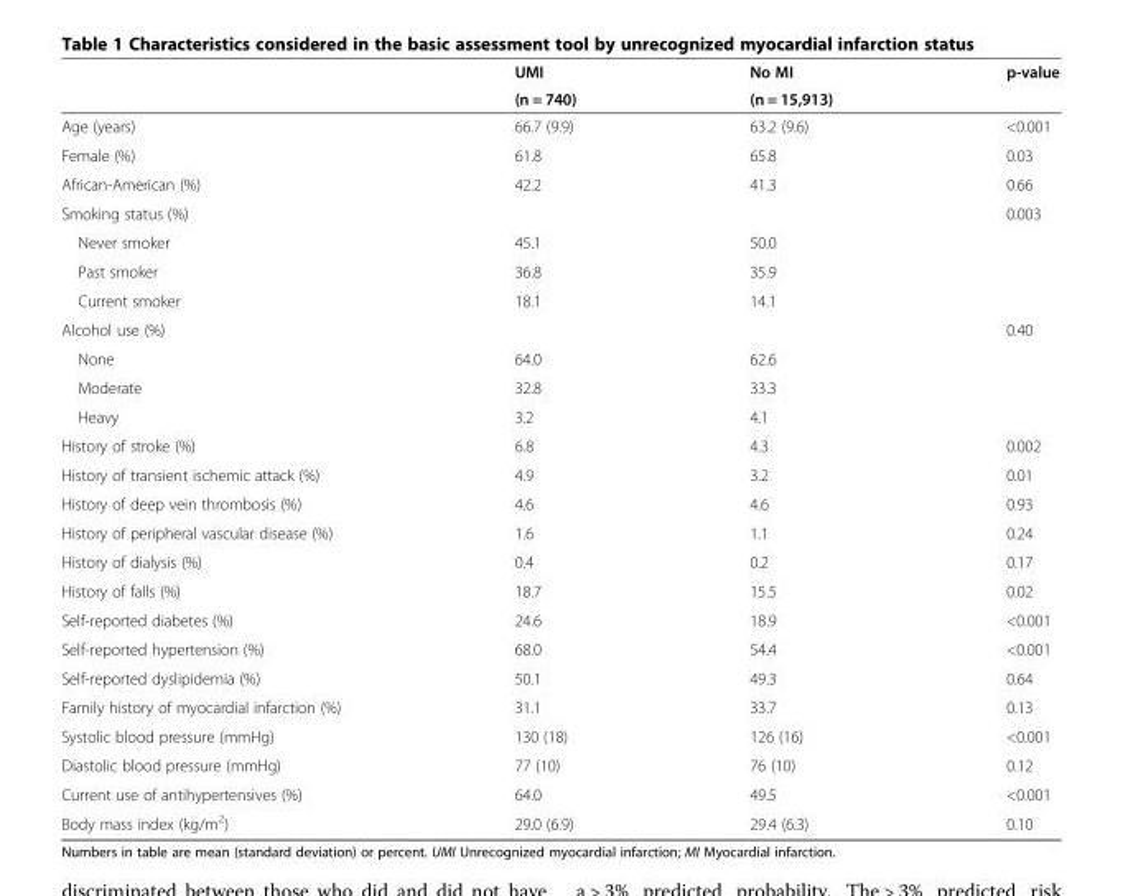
<table><thead><tr><td rowspan="2"></td><td rowspan="2">UMI (n = 740)</td><td rowspan="2">No MI (n = 15,913)</td><td rowspan="2">p-value</td></tr><tr></tr></thead><tbody><tr><td>Age (years)</td><td>66.7 (9.9)</td><td>63.2 (9.6)</td><td>&lt;0.001</td></tr><tr><td>Female (%)</td><td>61.8</td><td>65.8</td><td>0.03</td></tr><tr><td>African-American (%)</td><td>42.2</td><td>41.3</td><td>0.66</td></tr><tr><td>Smoking status (%)</td><td></td><td></td><td>0.003</td></tr><tr><td>Never smoker</td><td>45.1</td><td>50.0</td><td></td></tr><tr><td>Past smoker</td><td>36.8</td><td>35.9</td><td></td></tr><tr><td>Current smoker</td><td>18.1</td><td>14.1</td><td></td></tr><tr><td>Alcohol use (%)</td><td></td><td></td><td>0.40</td></tr><tr><td>None</td><td>64.0</td><td>62.6</td><td></td></tr><tr><td>Moderate</td><td>32.8</td><td>33.3</td><td></td></tr><tr><td>Heavy</td><td>3.2</td><td>4.1</td><td></td></tr><tr><td>History of stroke (%)</td><td>6.8</td><td>4.3</td><td>0.002</td></tr><tr><td>History of transient ischemic attack (%)</td><td>4.9</td><td>3.2</td><td>0.01</td></tr><tr><td>History of deep vein thrombosis (%)</td><td>4.6</td><td>4.6</td><td>0.93</td></tr><tr><td>History of peripheral vascular disease (%)</td><td>1.6</td><td>1.1</td><td>0.24</td></tr><tr><td>History of dialysis (%)</td><td>0.4</td><td>0.2</td><td>0.17</td></tr><tr><td>History of falls (%)</td><td>18.7</td><td>15.5</td><td>0.02</td></tr><tr><td>Self-reported diabetes (%)</td><td>24.6</td><td>18.9</td><td>&lt;0.001</td></tr><tr><td>Self-reported hypertension (%)</td><td>68.0</td><td>54.4</td><td>&lt;0.001</td></tr><tr><td>Self-reported dyslipidemia (%)</td><td>50.1</td><td>49.3</td><td>0.64</td></tr><tr><td>Family history of myocardial infarction (%)</td><td>31.1</td><td>33.7</td><td>0.13</td></tr><tr><td>Systolic blood pressure (mmHg)</td><td>130 (18)</td><td>126 (16)</td><td>&lt;0.001</td></tr><tr><td>Diastolic blood pressure (mmHg)</td><td>77 (10)</td><td>76 (10)</td><td>0.12</td></tr><tr><td>Current use of antihypertensives (%)</td><td>64.0</td><td>49.5</td><td>&lt;0.001</td></tr><tr><td>Body mass index (kg/m<sup>2</sup>)</td><td>29.0 (6.9)</td><td>29.4 (6.3)</td><td>0.10</td></tr></tbody></table>